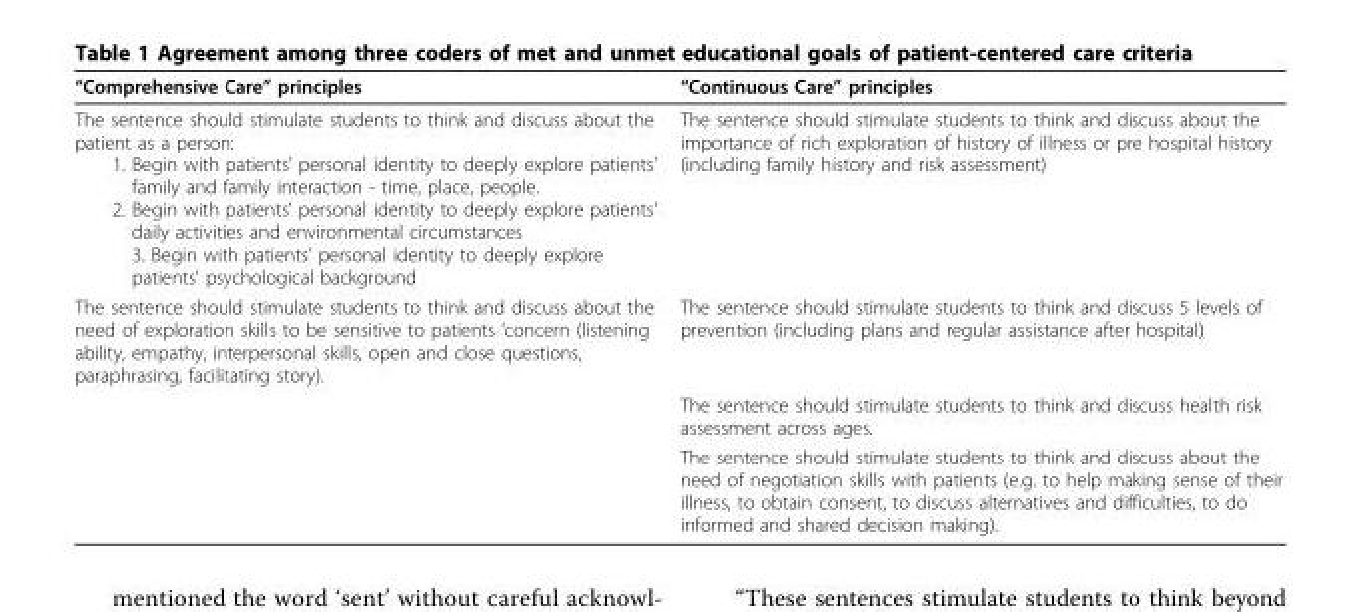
<table><thead><tr><td>“Comprehensive Care” principles</td><td>“Continuous Care” principles</td></tr></thead><tbody><tr><td>The sentence should stimulate students to think and discuss about the patient as a person: 1. Begin with patients’ personal identity to deeply explore patients’ family and family interaction - time, place, people. 2. Begin with patients’ personal identity to deeply explore patients’ daily activities and environmental circumstances 3. Begin with patients’ personal identity to deeply explore patients’ psychological background</td><td>The sentence should stimulate students to think and discuss about the importance of rich exploration of history of illness or pre hospital history (including family history and risk assessment)</td></tr><tr><td rowspan="3">The sentence should stimulate students to think and discuss about the need of exploration skills to be sensitive to patients ‘concern (listening ability, empathy, interpersonal skills, open and close questions, paraphrasing, facilitating story).</td><td>The sentence should stimulate students to think and discuss 5 levels of prevention (including plans and regular assistance after hospital)</td></tr><tr><td>The sentence should stimulate students to think and discuss health risk assessment across ages.</td></tr><tr><td>The sentence should stimulate students to think and discuss about the need of negotiation skills with patients (e.g. to help making sense of their illness, to obtain consent, to discuss alternatives and difficulties, to do informed and shared decision making).</td></tr></tbody></table>